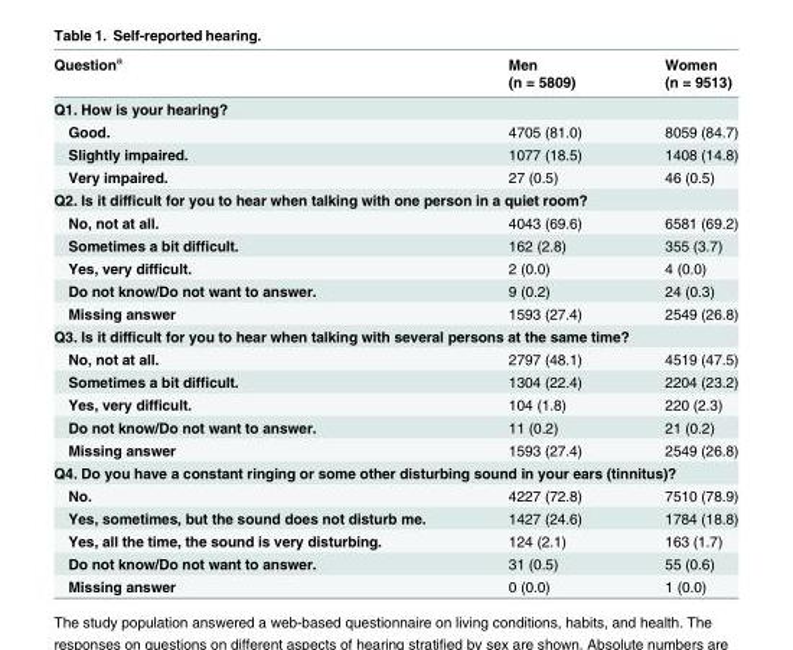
<table><thead><tr><td rowspan="2">Question<sup>a</sup></td><td rowspan="2">Men (n = 5809)</td><td rowspan="2">Women (n = 9513)</td></tr><tr></tr></thead><tbody><tr><td colspan="3">Q1. How is your hearing?</td></tr><tr><td>Good.</td><td>4705 (81.0)</td><td>8059 (84.7)</td></tr><tr><td>Slightly impaired.</td><td>1077 (18.5)</td><td>1408 (14.8)</td></tr><tr><td>Very impaired.</td><td>27 (0.5)</td><td>46 (0.5)</td></tr><tr><td colspan="3">Q2. Is it difficult for you to hear when talking with one person in a quiet room?</td></tr><tr><td>No, not at all.</td><td>4043 (69.6)</td><td>6581 (69.2)</td></tr><tr><td>Sometimes a bit difficult.</td><td>162 (2.8)</td><td>355 (3.7)</td></tr><tr><td>Yes, very difficult.</td><td>2 (0.0)</td><td>4 (0.0)</td></tr><tr><td>Do not know/Do not want to answer.</td><td>9 (0.2)</td><td>24 (0.3)</td></tr><tr><td>Missing answer</td><td>1593 (27.4)</td><td>2549 (26.8)</td></tr><tr><td colspan="3">Q3. Is it difficult for you to hear when talking with several persons at the same time?</td></tr><tr><td>No, not at all.</td><td>2797 (48.1)</td><td>4519 (47.5)</td></tr><tr><td>Sometimes a bit difficult.</td><td>1304 (22.4)</td><td>2204 (23.2)</td></tr><tr><td>Yes, very difficult.</td><td>104 (1.8)</td><td>220 (2.3)</td></tr><tr><td>Do not know/Do not want to answer.</td><td>11 (0.2)</td><td>21 (0.2)</td></tr><tr><td>Missing answer</td><td>1593 (27.4)</td><td>2549 (26.8)</td></tr><tr><td colspan="3">Q4. Do you have a constant ringing or some other disturbing sound in your ears (tinnitus)?</td></tr><tr><td>No.</td><td>4227 (72.8)</td><td>7510 (78.9)</td></tr><tr><td>Yes, sometimes, but the sound does not disturb me.</td><td>1427 (24.6)</td><td>1784 (18.8)</td></tr><tr><td>Yes, all the time, the sound is very disturbing.</td><td>124 (2.1)</td><td>163 (1.7)</td></tr><tr><td>Do not know/Do not want to answer.</td><td>31 (0.5)</td><td>55 (0.6)</td></tr><tr><td>Missing answer</td><td>0 (0.0)</td><td>1 (0.0)</td></tr></tbody></table>